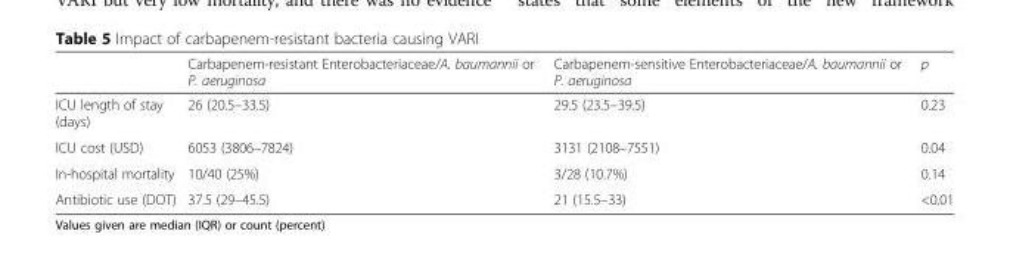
<table><thead><tr><td></td><td>Carbapenem-resistant Enterobacteriaceae/A. baumannii or P. aeruginosa</td><td>Carbapenem-sensitive Enterobacteriaceae/A. baumannii or P. aeruginosa</td><td>p</td></tr></thead><tbody><tr><td>ICU length of stay (days)</td><td>26 (20.5–33.5)</td><td>29.5 (23.5–39.5)</td><td>0.23</td></tr><tr><td>ICU cost (USD)</td><td>6053 (3806–7824)</td><td>3131 (2108–7551)</td><td>0.04</td></tr><tr><td>In-hospital mortality</td><td>10/40 (25%)</td><td>3/28 (10.7%)</td><td>0.14</td></tr><tr><td>Antibiotic use (DOT)</td><td>37.5 (29–45.5)</td><td>21 (15.5–33)</td><td>&lt;0.01</td></tr></tbody></table>